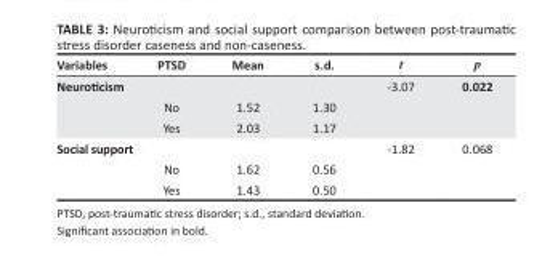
<table><thead><tr><td>Variables</td><td>PTSD</td><td>Mean</td><td>s.d.</td><td>t</td><td>p</td></tr></thead><tbody><tr><td rowspan="3">Neuroticism</td><td></td><td></td><td></td><td>-3.07</td><td>0.022</td></tr><tr><td>No</td><td>1.52</td><td>1.30</td><td></td><td></td></tr><tr><td>Yes</td><td>2.03</td><td>1.17</td><td></td><td></td></tr><tr><td rowspan="3">Social support</td><td></td><td></td><td></td><td>-1.82</td><td>0.068</td></tr><tr><td>No</td><td>1.62</td><td>0.56</td><td></td><td></td></tr><tr><td>Yes</td><td>1.43</td><td>0.50</td><td></td><td></td></tr></tbody></table>